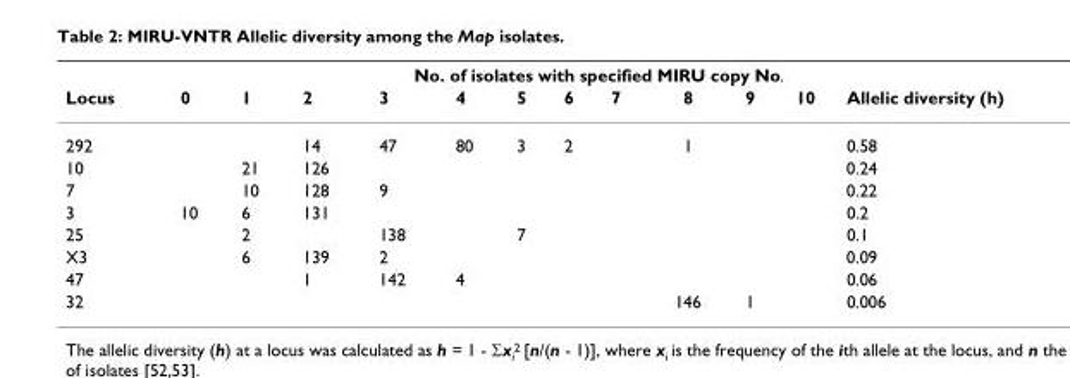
<table><thead><tr><td colspan="13">No. of isolates with specified MIRU copy No.</td></tr><tr><td>Locus</td><td>0</td><td>1</td><td>2</td><td>3</td><td>4</td><td>5</td><td>6</td><td>7</td><td>8</td><td>9</td><td>10</td><td>Allelic diversity (h)</td></tr></thead><tbody><tr><td>292</td><td></td><td></td><td>14</td><td>47</td><td>80</td><td>3</td><td>2</td><td></td><td>1</td><td></td><td></td><td>0.58</td></tr><tr><td>10</td><td></td><td>21</td><td>126</td><td></td><td></td><td></td><td></td><td></td><td></td><td></td><td></td><td>0.24</td></tr><tr><td>7</td><td></td><td>10</td><td>128</td><td>9</td><td></td><td></td><td></td><td></td><td></td><td></td><td></td><td>0.22</td></tr><tr><td>3</td><td>10</td><td>6</td><td>131</td><td></td><td></td><td></td><td></td><td></td><td></td><td></td><td></td><td>0.2</td></tr><tr><td>25</td><td></td><td>2</td><td></td><td>138</td><td></td><td>7</td><td></td><td></td><td></td><td></td><td></td><td>0.1</td></tr><tr><td>X3</td><td></td><td>6</td><td>139</td><td>2</td><td></td><td></td><td></td><td></td><td></td><td></td><td></td><td>0.09</td></tr><tr><td>47</td><td></td><td></td><td>1</td><td>142</td><td>4</td><td></td><td></td><td></td><td></td><td></td><td></td><td>0.06</td></tr><tr><td>32</td><td></td><td></td><td></td><td></td><td></td><td></td><td></td><td></td><td>146</td><td>1</td><td></td><td>0.006</td></tr></tbody></table>